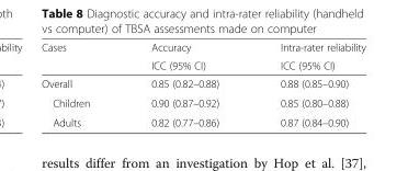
<table><thead><tr><td rowspan="2">Cases</td><td rowspan="2">Accuracy ICC (95% CI)</td><td rowspan="2">Intra-rater reliability ICC (95% CI)</td></tr><tr></tr></thead><tbody><tr><td>Overall</td><td>0.85 (0.82–0.88)</td><td>0.88 (0.85–0.90)</td></tr><tr><td>Children</td><td>0.90 (0.87–0.92)</td><td>0.85 (0.80–0.88)</td></tr><tr><td>Adults</td><td>0.82 (0.77–0.86)</td><td>0.87 (0.84–0.90)</td></tr></tbody></table>